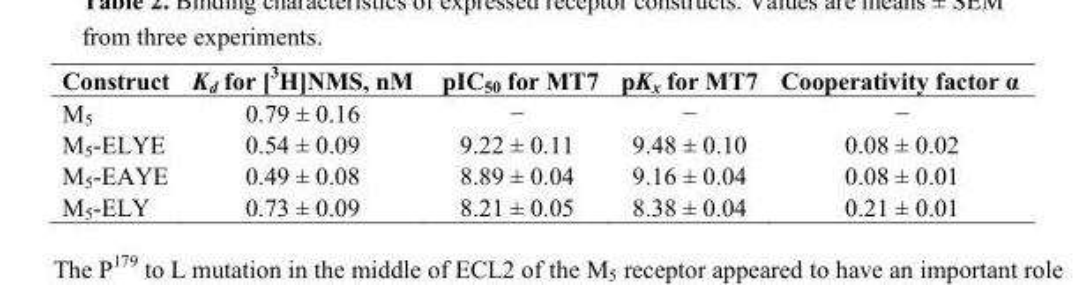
<table><thead><tr><td>Construct</td><td>K<sub>d</sub> for [<sup>3</sup>H]NMS, nM</td><td>pIC<sub>50</sub> for MT7</td><td>pK<sub>x</sub> for MT7</td><td>Cooperativity factor α</td></tr></thead><tbody><tr><td>M<sub>5</sub></td><td>0.79 ± 0.16</td><td>−</td><td>−</td><td>−</td></tr><tr><td>M<sub>5</sub>-ELYE</td><td>0.54 ± 0.09</td><td>9.22 ± 0.11</td><td>9.48 ± 0.10</td><td>0.08 ± 0.02</td></tr><tr><td>M<sub>5</sub>-EAYE</td><td>0.49 ± 0.08</td><td>8.89 ± 0.04</td><td>9.16 ± 0.04</td><td>0.08 ± 0.01</td></tr><tr><td>M<sub>5</sub>-ELY</td><td>0.73 ± 0.09</td><td>8.21 ± 0.05</td><td>8.38 ± 0.04</td><td>0.21 ± 0.01</td></tr></tbody></table>